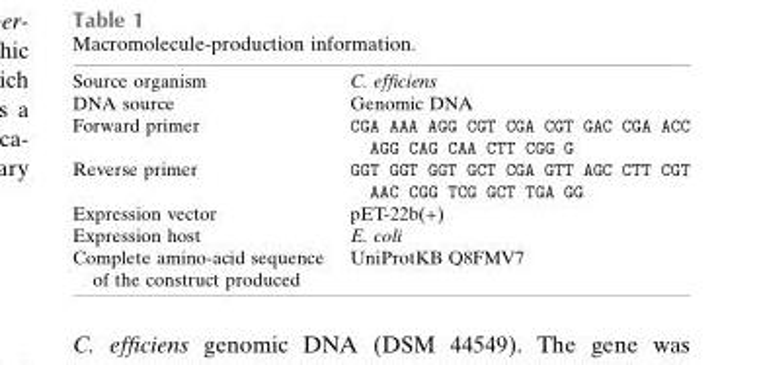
<table><tbody><tr><td>Source organism</td><td>C. efficiens</td></tr><tr><td>DNA source</td><td>Genomic DNA</td></tr><tr><td>Forward primer</td><td>CGA AAA AGG CGT CGA CGT GAC CGA ACC AGG CAG CAA CTT CGG G</td></tr><tr><td>Reverse primer</td><td>GGT GGT GGT GCT CGA GTT AGC CTT CGT AAC CGG TCG GCT TGA GG</td></tr><tr><td>Expression vector</td><td>pET-22b(+)</td></tr><tr><td>Expression host</td><td>E. coli</td></tr><tr><td>Complete amino-acid sequence of the construct produced</td><td>UniProtKB Q8FMV7</td></tr></tbody></table>